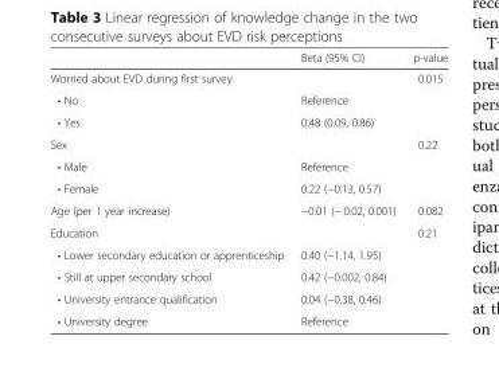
<table><thead><tr><td></td><td>Beta (95% CI)</td><td>p-value</td></tr></thead><tbody><tr><td>Worried about EVD during first survey</td><td></td><td>0.015</td></tr><tr><td>• No</td><td>Reference</td><td></td></tr><tr><td>• Yes</td><td>0.48 (0.09, 0.86)</td><td></td></tr><tr><td>Sex</td><td></td><td>0.22</td></tr><tr><td>• Male</td><td>Reference</td><td></td></tr><tr><td>• Female</td><td>0.22 (−0.13, 0.57)</td><td></td></tr><tr><td>Age (per 1 year increase)</td><td>−0.01 (− 0.02, 0.001)</td><td>0.082</td></tr><tr><td>Education</td><td></td><td>0.21</td></tr><tr><td>• Lower secondary education or apprenticeship</td><td>0.40 (−1.14, 1.95)</td><td></td></tr><tr><td>• Still at upper secondary school</td><td>0.42 (−0.002, 0.84)</td><td></td></tr><tr><td>• University entrance qualification</td><td>0.04 (−0.38, 0.46)</td><td></td></tr><tr><td>• University degree</td><td>Reference</td><td></td></tr></tbody></table>